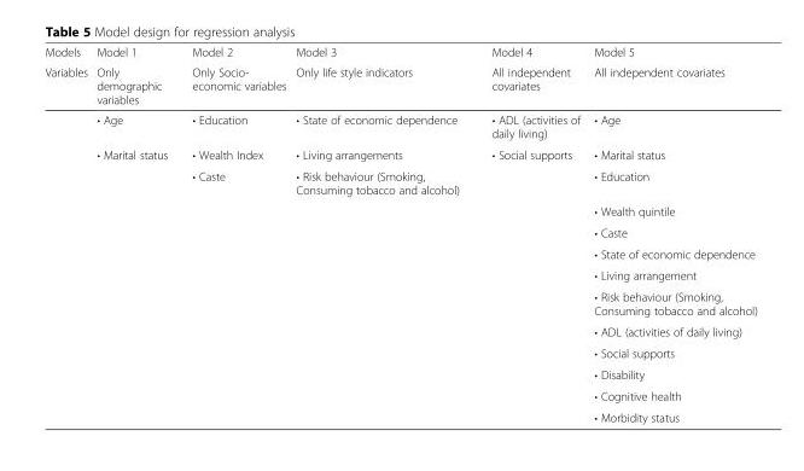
<table><thead><tr><td rowspan="2">Models Variables</td><td rowspan="2">Model 1 Only demographic variables</td><td rowspan="2">Model 2 Only Socio- economic variables</td><td rowspan="2">Model 3 Only life style indicators</td><td rowspan="2">Model 4 All independent covariates</td><td rowspan="2">Model 5 All independent covariates</td></tr><tr></tr></thead><tbody><tr><td></td><td>• Age</td><td>• Education</td><td>• State of economic dependence</td><td>• ADL (activities of daily living)</td><td>• Age</td></tr><tr><td></td><td>• Marital status</td><td>• Wealth Index</td><td>• Living arrangements</td><td>• Social supports</td><td>• Marital status</td></tr><tr><td></td><td></td><td>• Caste</td><td>• Risk behaviour (Smoking, Consuming tobacco and alcohol)</td><td></td><td>• Education</td></tr><tr><td></td><td></td><td></td><td></td><td></td><td>• Wealth quintile</td></tr><tr><td></td><td></td><td></td><td></td><td></td><td>• Caste</td></tr><tr><td></td><td></td><td></td><td></td><td></td><td>• State of economic dependence</td></tr><tr><td></td><td></td><td></td><td></td><td></td><td>• Living arrangement</td></tr><tr><td></td><td></td><td></td><td></td><td></td><td>• Risk behaviour (Smoking, Consuming tobacco and alcohol)</td></tr><tr><td></td><td></td><td></td><td></td><td></td><td>• ADL (activities of daily living)</td></tr><tr><td></td><td></td><td></td><td></td><td></td><td>• Social supports</td></tr><tr><td></td><td></td><td></td><td></td><td></td><td>• Disability</td></tr><tr><td></td><td></td><td></td><td></td><td></td><td>• Cognitive health</td></tr><tr><td></td><td></td><td></td><td></td><td></td><td>• Morbidity status</td></tr></tbody></table>